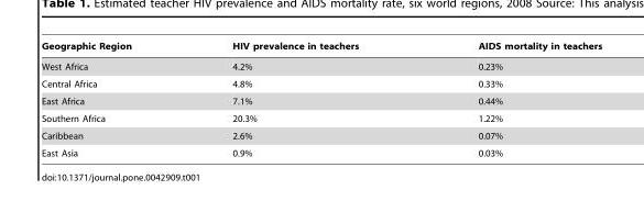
<table><thead><tr><td>Geographic Region</td><td>HIV prevalence in teachers</td><td>AIDS mortality in teachers</td></tr></thead><tbody><tr><td>West Africa</td><td>4.2%</td><td>0.23%</td></tr><tr><td>Central Africa</td><td>4.8%</td><td>0.33%</td></tr><tr><td>East Africa</td><td>7.1%</td><td>0.44%</td></tr><tr><td>Southern Africa</td><td>20.3%</td><td>1.22%</td></tr><tr><td>Caribbean</td><td>2.6%</td><td>0.07%</td></tr><tr><td>East Asia</td><td>0.9%</td><td>0.03%</td></tr></tbody></table>